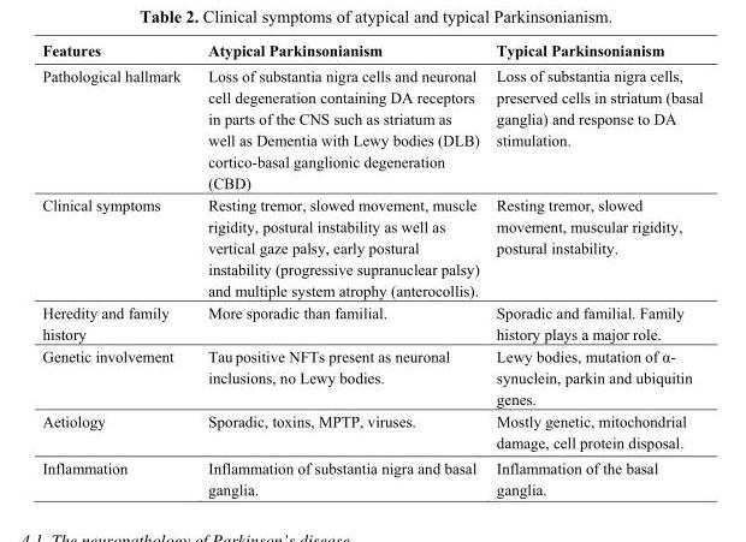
<table><thead><tr><td>Features</td><td>Atypical Parkinsonianism</td><td>Typical Parkinsonianism</td></tr></thead><tbody><tr><td>Pathological hallmark</td><td>Loss of substantia nigra cells and neuronal cell degeneration containing DA receptors in parts of the CNS such as striatum as well as Dementia with Lewy bodies (DLB) cortico-basal ganglionic degeneration (CBD)</td><td>Loss of substantia nigra cells, preserved cells in striatum (basal ganglia) and response to DA stimulation.</td></tr><tr><td>Clinical symptoms</td><td>Resting tremor, slowed movement, muscle rigidity, postural instability as well as vertical gaze palsy, early postural instability (progressive supranuclear palsy) and multiple system atrophy (anterocollis).</td><td>Resting tremor, slowed movement, muscular rigidity, postural instability.</td></tr><tr><td>Heredity and family history</td><td>More sporadic than familial.</td><td>Sporadic and familial. Family history plays a major role.</td></tr><tr><td>Genetic involvement</td><td>Tau positive NFTs present as neuronal inclusions, no Lewy bodies.</td><td>Lewy bodies, mutation of α- synuclein, parkin and ubiquitin genes.</td></tr><tr><td>Aetiology</td><td>Sporadic, toxins, MPTP, viruses.</td><td>Mostly genetic, mitochondrial damage, cell protein disposal.</td></tr><tr><td>Inflammation</td><td>Inflammation of substantia nigra and basal ganglia.</td><td>Inflammation of the basal ganglia.</td></tr></tbody></table>